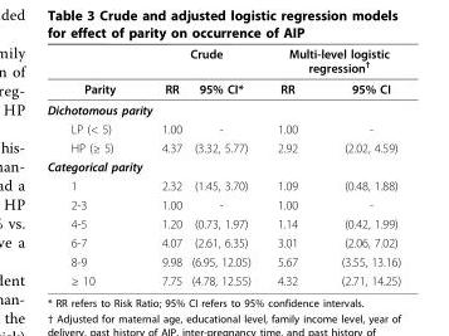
<table><thead><tr><td rowspan="2">Parity</td><td colspan="2">Crude</td><td colspan="2">Multi-level logistic regression<sup>†</sup></td></tr><tr><td>RR</td><td>95% CI*</td><td>RR</td><td>95% CI</td></tr></thead><tbody><tr><td colspan="5">Dichotomous parity</td></tr><tr><td>LP (&lt; 5)</td><td>1.00</td><td>-</td><td>1.00</td><td>-</td></tr><tr><td>HP (≥ 5)</td><td>4.37</td><td>(3.32, 5.77)</td><td>2.92</td><td>(2.02, 4.59)</td></tr><tr><td colspan="5">Categorical parity</td></tr><tr><td>1</td><td>2.32</td><td>(1.45, 3.70)</td><td>1.09</td><td>(0.48, 1.88)</td></tr><tr><td>2-3</td><td>1.00</td><td>-</td><td>1.00</td><td>-</td></tr><tr><td>4-5</td><td>1.20</td><td>(0.73, 1.97)</td><td>1.14</td><td>(0.42, 1.99)</td></tr><tr><td>6-7</td><td>4.07</td><td>(2.61, 6.35)</td><td>3.01</td><td>(2.06, 7.02)</td></tr><tr><td>8-9</td><td>9.98</td><td>(6.95, 12.05)</td><td>5.67</td><td>(3.55, 13.16)</td></tr><tr><td>≥ 10</td><td>7.75</td><td>(4.78, 12.55)</td><td>4.32</td><td>(2.71, 14.25)</td></tr></tbody></table>